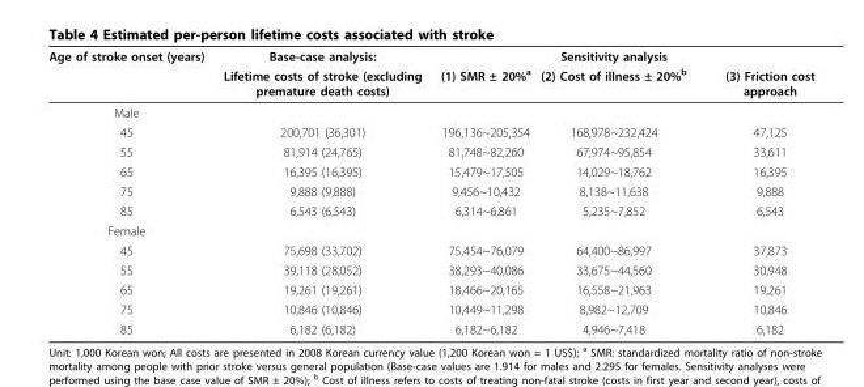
<table><thead><tr><td rowspan="2">Age of stroke onset (years)</td><td rowspan="2">Base-case analysis: Lifetime costs of stroke (excluding premature death costs)</td><td rowspan="2">(1) SMR ± 20%<sup>a</sup></td><td rowspan="2">Sensitivity analysis (2) Cost of illness ± 20%<sup>b</sup></td><td rowspan="2">(3) Friction cost approach</td></tr><tr></tr></thead><tbody><tr><td colspan="5">Male</td></tr><tr><td>45</td><td>200,701 (36,301)</td><td>196,136~205,354</td><td>168,978~232,424</td><td>47,125</td></tr><tr><td>55</td><td>81,914 (24,765)</td><td>81,748~82,260</td><td>67,974~95,854</td><td>33,611</td></tr><tr><td>65</td><td>16,395 (16,395)</td><td>15,479~17,505</td><td>14,029~18,762</td><td>16,395</td></tr><tr><td>75</td><td>9,888 (9,888)</td><td>9,456~10,432</td><td>8,138~11,638</td><td>9,888</td></tr><tr><td>85</td><td>6,543 (6,543)</td><td>6,314~6,861</td><td>5,235~7,852</td><td>6,543</td></tr><tr><td colspan="5">Female</td></tr><tr><td>45</td><td>75,698 (33,702)</td><td>75,454~76,079</td><td>64,400~86,997</td><td>37,873</td></tr><tr><td>55</td><td>39,118 (28,052)</td><td>38,293~40,086</td><td>33,675~44,560</td><td>30,948</td></tr><tr><td>65</td><td>19,261 (19,261)</td><td>18,466~20,165</td><td>16,558~21,963</td><td>19,261</td></tr><tr><td>75</td><td>10,846 (10,846)</td><td>10,449~11,298</td><td>8,982~12,709</td><td>10,846</td></tr><tr><td>85</td><td>6,182 (6,182)</td><td>6,182~6,182</td><td>4,946~7,418</td><td>6,182</td></tr></tbody></table>